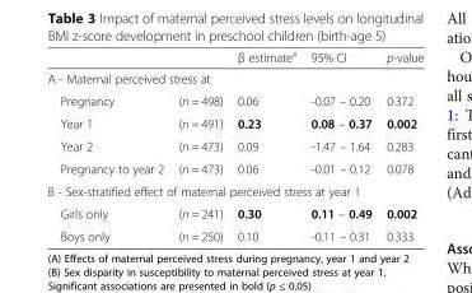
<table><thead><tr><td></td><td></td><td>β estimate<sup>a</sup></td><td>95% CI</td><td>p-value</td></tr></thead><tbody><tr><td colspan="5">A - Maternal perceived stress at</td></tr><tr><td>Pregnancy</td><td>(n = 498)</td><td>0.06</td><td>-0.07 – 0.20</td><td>0.372</td></tr><tr><td>Year 1</td><td>(n = 491)</td><td>0.23</td><td>0.08 – 0.37</td><td>0.002</td></tr><tr><td>Year 2</td><td>(n = 473)</td><td>0.09</td><td>-1.47 – 1.64</td><td>0.283</td></tr><tr><td>Pregnancy to year 2</td><td>(n = 473)</td><td>0.06</td><td>-0.01 – 0.12</td><td>0.078</td></tr><tr><td colspan="5">B - Sex-stratified effect of maternal perceived stress at year 1</td></tr><tr><td>Girls only</td><td>(n = 241)</td><td>0.30</td><td>0.11 – 0.49</td><td>0.002</td></tr><tr><td>Boys only</td><td>(n = 250)</td><td>0.10</td><td>-0.11 – 0.31</td><td>0.333</td></tr></tbody></table>